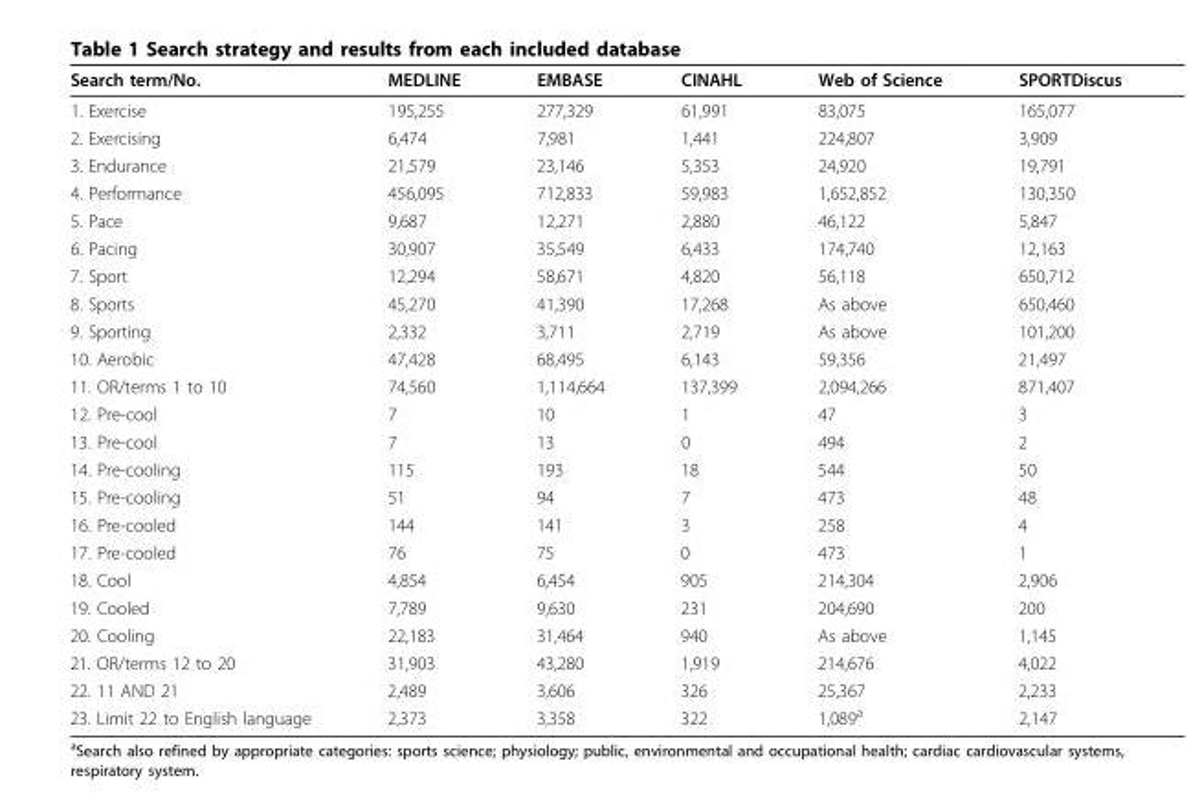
<table><thead><tr><td>Search term/No.</td><td>MEDLINE</td><td>EMBASE</td><td>CINAHL</td><td>Web of Science</td><td>SPORTDiscus</td></tr></thead><tbody><tr><td>1. Exercise</td><td>195,255</td><td>277,329</td><td>61,991</td><td>83,075</td><td>165,077</td></tr><tr><td>2. Exercising</td><td>6,474</td><td>7,981</td><td>1,441</td><td>224,807</td><td>3,909</td></tr><tr><td>3. Endurance</td><td>21,579</td><td>23,146</td><td>5,353</td><td>24,920</td><td>19,791</td></tr><tr><td>4. Performance</td><td>456,095</td><td>712,833</td><td>59,983</td><td>1,652,852</td><td>130,350</td></tr><tr><td>5. Pace</td><td>9,687</td><td>12,271</td><td>2,880</td><td>46,122</td><td>5,847</td></tr><tr><td>6. Pacing</td><td>30,907</td><td>35,549</td><td>6,433</td><td>174,740</td><td>12,163</td></tr><tr><td>7. Sport</td><td>12,294</td><td>58,671</td><td>4,820</td><td>56,118</td><td>650,712</td></tr><tr><td>8. Sports</td><td>45,270</td><td>41,390</td><td>17,268</td><td>As above</td><td>650,460</td></tr><tr><td>9. Sporting</td><td>2,332</td><td>3,711</td><td>2,719</td><td>As above</td><td>101,200</td></tr><tr><td>10. Aerobic</td><td>47,428</td><td>68,495</td><td>6,143</td><td>59,356</td><td>21,497</td></tr><tr><td>11. OR/terms 1 to 10</td><td>74,560</td><td>1,114,664</td><td>137,399</td><td>2,094,266</td><td>871,407</td></tr><tr><td>12. Pre-cool</td><td>7</td><td>10</td><td>1</td><td>47</td><td>3</td></tr><tr><td>13. Pre-cool</td><td>7</td><td>13</td><td>0</td><td>494</td><td>2</td></tr><tr><td>14. Pre-cooling</td><td>115</td><td>193</td><td>18</td><td>544</td><td>50</td></tr><tr><td>15. Pre-cooling</td><td>51</td><td>94</td><td>7</td><td>473</td><td>48</td></tr><tr><td>16. Pre-cooled</td><td>144</td><td>141</td><td>3</td><td>258</td><td>4</td></tr><tr><td>17. Pre-cooled</td><td>76</td><td>75</td><td>0</td><td>473</td><td>1</td></tr><tr><td>18. Cool</td><td>4,854</td><td>6,454</td><td>905</td><td>214,304</td><td>2,906</td></tr><tr><td>19. Cooled</td><td>7,789</td><td>9,630</td><td>231</td><td>204,690</td><td>200</td></tr><tr><td>20. Cooling</td><td>22,183</td><td>31,464</td><td>940</td><td>As above</td><td>1,145</td></tr><tr><td>21. OR/terms 12 to 20</td><td>31,903</td><td>43,280</td><td>1,919</td><td>214,676</td><td>4,022</td></tr><tr><td>22. 11 AND 21</td><td>2,489</td><td>3,606</td><td>326</td><td>25,367</td><td>2,233</td></tr><tr><td>23. Limit 22 to English language</td><td>2,373</td><td>3,358</td><td>322</td><td>1,089<sup>a</sup></td><td>2,147</td></tr></tbody></table>